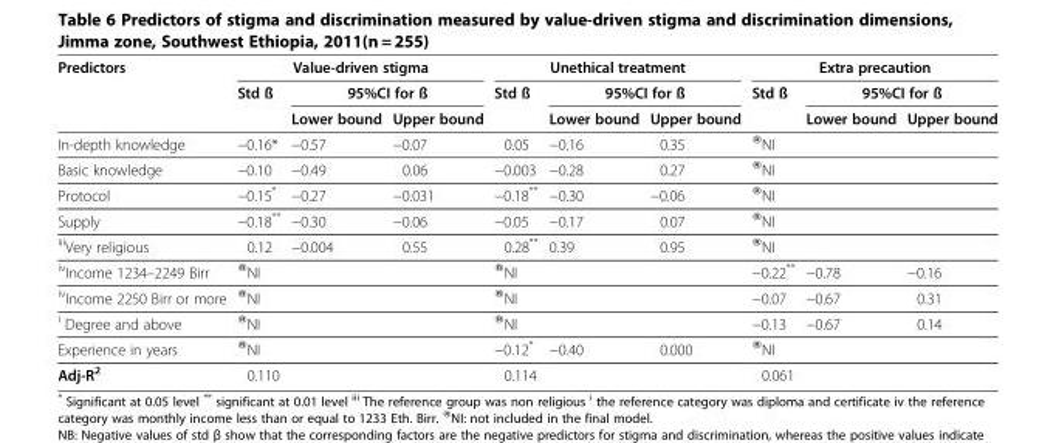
<table><thead><tr><td rowspan="3">Predictors</td><td colspan="3">Value-driven stigma</td><td colspan="3">Unethical treatment</td><td colspan="3">Extra precaution</td></tr><tr><td rowspan="2">Std ß</td><td colspan="2">95%CI for ß</td><td rowspan="2">Std ß</td><td colspan="2">95%CI for ß</td><td rowspan="2">Std ß</td><td colspan="2">95%CI for ß</td></tr><tr><td>Lower bound</td><td>Upper bound</td><td>Lower bound</td><td>Upper bound</td><td>Lower bound</td><td>Upper bound</td></tr></thead><tbody><tr><td>In-depth knowledge</td><td>−0.16*</td><td>−0.57</td><td>−0.07</td><td>0.05</td><td>−0.16</td><td>0.35</td><td colspan="3">®NI</td></tr><tr><td>Basic knowledge</td><td>−0.10</td><td>−0.49</td><td>0.06</td><td>−0.003</td><td>−0.28</td><td>0.27</td><td colspan="3">®NI</td></tr><tr><td>Protocol</td><td>−0.15*</td><td>−0.27</td><td>−0.031</td><td>−0.18**</td><td>−0.30</td><td>−0.06</td><td colspan="3">®NI</td></tr><tr><td>Supply</td><td>−0.18**</td><td>−0.30</td><td>−0.06</td><td>−0.05</td><td>−0.17</td><td>0.07</td><td colspan="3">®NI</td></tr><tr><td><sup>iii</sup>Very religious</td><td>0.12</td><td>−0.004</td><td>0.55</td><td>0.28**</td><td>0.39</td><td>0.95</td><td colspan="3">®NI</td></tr><tr><td><sup>iv</sup>Income 1234–2249 Birr</td><td colspan="3">®NI</td><td colspan="3">®NI</td><td>−0.22**</td><td>−0.78</td><td>−0.16</td></tr><tr><td><sup>iv</sup>Income 2250 Birr or more</td><td colspan="3">®NI</td><td colspan="3">®NI</td><td>−0.07</td><td>−0.67</td><td>0.31</td></tr><tr><td><sup>i</sup> Degree and above</td><td colspan="3">®NI</td><td colspan="3">®NI</td><td>−0.13</td><td>−0.67</td><td>0.14</td></tr><tr><td>Experience in years</td><td colspan="3">®NI</td><td>−0.12*</td><td>−0.40</td><td>0.000</td><td colspan="3">®NI</td></tr><tr><td>Adj-R<sup>2</sup></td><td colspan="3">0.110</td><td colspan="3">0.114</td><td colspan="3">0.061</td></tr></tbody></table>